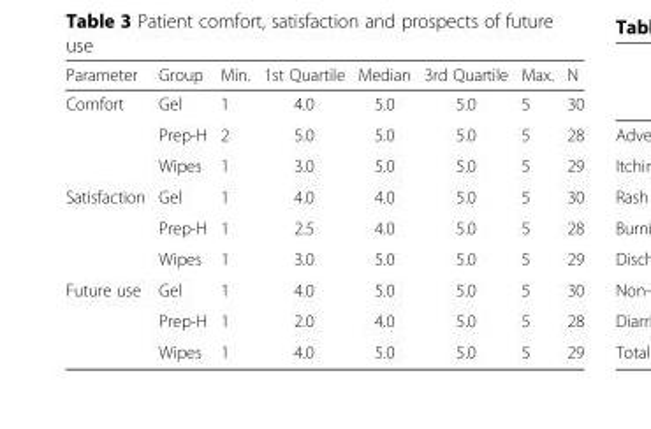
<table><thead><tr><td>Parameter</td><td>Group</td><td>Min.</td><td>1st Quartile</td><td>Median</td><td>3rd Quartile</td><td>Max.</td><td>N</td></tr></thead><tbody><tr><td rowspan="3">Comfort</td><td>Gel</td><td>1</td><td>4.0</td><td>5.0</td><td>5.0</td><td>5</td><td>30</td></tr><tr><td>Prep-H</td><td>2</td><td>5.0</td><td>5.0</td><td>5.0</td><td>5</td><td>28</td></tr><tr><td>Wipes</td><td>1</td><td>3.0</td><td>5.0</td><td>5.0</td><td>5</td><td>29</td></tr><tr><td rowspan="3">Satisfaction</td><td>Gel</td><td>1</td><td>4.0</td><td>4.0</td><td>5.0</td><td>5</td><td>30</td></tr><tr><td>Prep-H</td><td>1</td><td>2.5</td><td>4.0</td><td>5.0</td><td>5</td><td>28</td></tr><tr><td>Wipes</td><td>1</td><td>3.0</td><td>5.0</td><td>5.0</td><td>5</td><td>29</td></tr><tr><td rowspan="3">Future use</td><td>Gel</td><td>1</td><td>4.0</td><td>5.0</td><td>5.0</td><td>5</td><td>30</td></tr><tr><td>Prep-H</td><td>1</td><td>2.0</td><td>4.0</td><td>5.0</td><td>5</td><td>28</td></tr><tr><td>Wipes</td><td>1</td><td>4.0</td><td>5.0</td><td>5.0</td><td>5</td><td>29</td></tr></tbody></table>